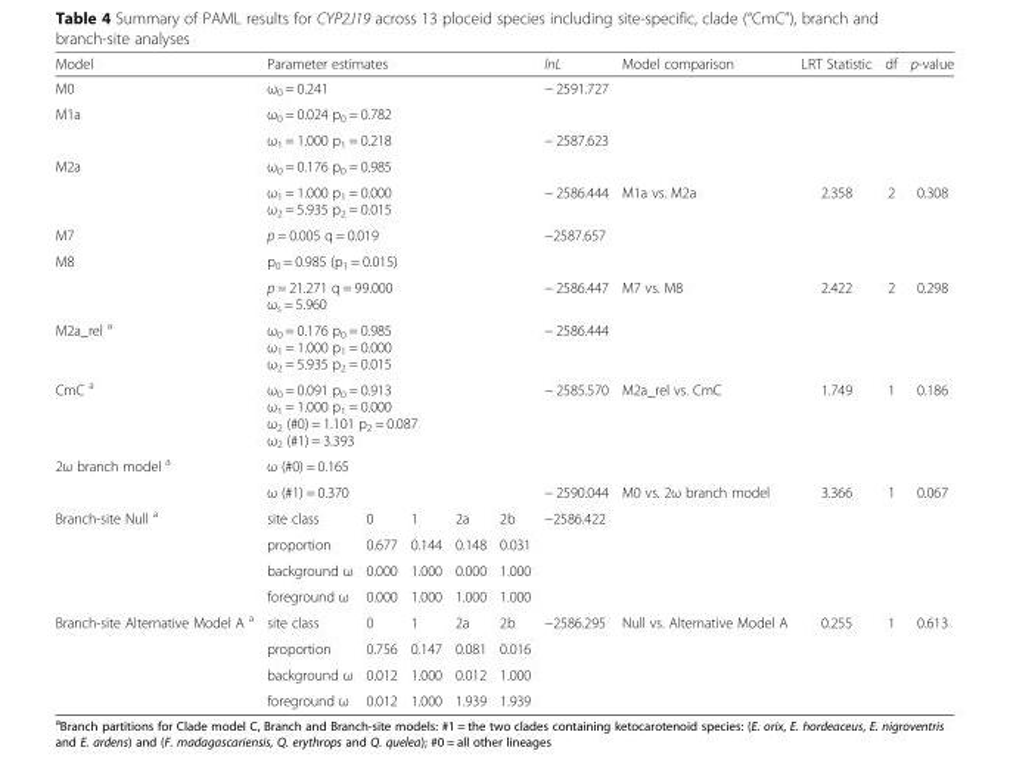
<table><thead><tr><td>Model</td><td colspan="5">Parameter estimates</td><td>lnL</td><td>Model comparison</td><td>LRT Statistic</td><td>df</td><td>p-value</td></tr></thead><tbody><tr><td>M0</td><td colspan="5">ω<sub>0</sub> = 0.241</td><td>− 2591.727</td><td></td><td></td><td></td><td></td></tr><tr><td rowspan="2">M1a</td><td colspan="5">ω<sub>0</sub> = 0.024 p<sub>0</sub> = 0.782</td><td></td><td></td><td></td><td></td><td></td></tr><tr><td colspan="5">ω<sub>1</sub> = 1.000 p<sub>1</sub> = 0.218</td><td>− 2587.623</td><td></td><td></td><td></td><td></td></tr><tr><td rowspan="2">M2a</td><td colspan="5">ω<sub>0</sub> = 0.176 p<sub>0</sub> = 0.985</td><td></td><td></td><td></td><td></td><td></td></tr><tr><td colspan="5">ω<sub>1</sub> = 1.000 p<sub>1</sub> = 0.000 ω<sub>2</sub> = 5.935 p<sub>2</sub> = 0.015</td><td>− 2586.444</td><td>M1a vs. M2a</td><td>2.358</td><td>2</td><td>0.308</td></tr><tr><td>M7</td><td colspan="5">p = 0.005 q = 0.019</td><td>−2587.657</td><td></td><td></td><td></td><td></td></tr><tr><td rowspan="2">M8</td><td colspan="5">p<sub>0</sub> = 0.985 (p<sub>1</sub> = 0.015)</td><td></td><td></td><td></td><td></td><td></td></tr><tr><td colspan="5">p = 21.271 q = 99.000 ω<sub>s</sub> = 5.960</td><td>− 2586.447</td><td>M7 vs. M8</td><td>2.422</td><td>2</td><td>0.298</td></tr><tr><td>M2a_rel <sup>a</sup></td><td colspan="5">ω<sub>0</sub> = 0.176 p<sub>0</sub> = 0.985 ω<sub>1</sub> = 1.000 p<sub>1</sub> = 0.000 ω<sub>2</sub> = 5.935 p<sub>2</sub> = 0.015</td><td>− 2586.444</td><td></td><td></td><td></td><td></td></tr><tr><td>CmC <sup>a</sup></td><td colspan="5">ω<sub>0</sub> = 0.091 p<sub>0</sub> = 0.913 ω<sub>1</sub> = 1.000 p<sub>1</sub> = 0.000 ω<sub>2</sub> (#0) = 1.101 p<sub>2</sub> = 0.087 ω<sub>2</sub> (#1) = 3.393</td><td>− 2585.570</td><td>M2a_rel vs. CmC</td><td>1.749</td><td>1</td><td>0.186</td></tr><tr><td rowspan="2">2ω branch model <sup>a</sup></td><td colspan="5">ω (#0) = 0.165</td><td></td><td></td><td></td><td></td><td></td></tr><tr><td colspan="5">ω (#1) = 0.370</td><td>− 2590.044</td><td>M0 vs. 2ω branch model</td><td>3.366</td><td>1</td><td>0.067</td></tr><tr><td rowspan="4">Branch-site Null <sup>a</sup></td><td>site class</td><td>0</td><td>1</td><td>2a</td><td>2b</td><td rowspan="4">−2586.422</td><td rowspan="4"></td><td rowspan="4"></td><td rowspan="4"></td><td rowspan="4"></td></tr><tr><td>proportion</td><td>0.677</td><td>0.144</td><td>0.148</td><td>0.031</td></tr><tr><td>background ω</td><td>0.000</td><td>1.000</td><td>0.000</td><td>1.000</td></tr><tr><td>foreground ω</td><td>0.000</td><td>1.000</td><td>1.000</td><td>1.000</td></tr><tr><td rowspan="4">Branch-site Alternative Model A <sup>a</sup></td><td>site class</td><td>0</td><td>1</td><td>2a</td><td>2b</td><td rowspan="4">−2586.295</td><td rowspan="4">Null vs. Alternative Model A</td><td rowspan="4">0.255</td><td rowspan="4">1</td><td rowspan="4">0.613</td></tr><tr><td>proportion</td><td>0.756</td><td>0.147</td><td>0.081</td><td>0.016</td></tr><tr><td>background ω</td><td>0.012</td><td>1.000</td><td>0.012</td><td>1.000</td></tr><tr><td>foreground ω</td><td>0.012</td><td>1.000</td><td>1.939</td><td>1.939</td></tr></tbody></table>